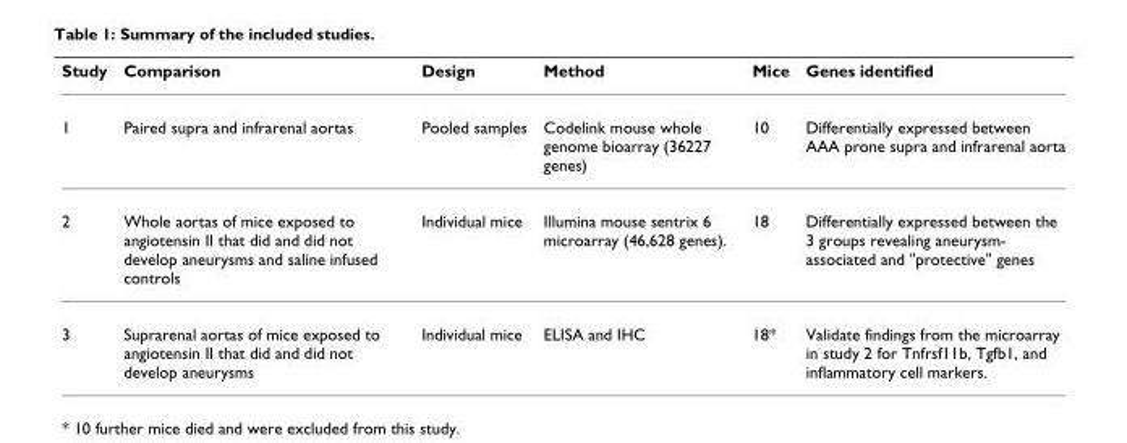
<table><thead><tr><td>Study</td><td>Comparison</td><td>Design</td><td>Method</td><td>Mice</td><td>Genes identified</td></tr></thead><tbody><tr><td>1</td><td>Paired supra and infrarenal aortas</td><td>Pooled samples</td><td>Codelink mouse whole genome bioarray (36227 genes)</td><td>10</td><td>Differentially expressed between AAA prone supra and infrarenal aorta</td></tr><tr><td>2</td><td>Whole aortas of mice exposed to angiotensin II that did and did not develop aneurysms and saline infused controls</td><td>Individual mice</td><td>Illumina mouse sentrix 6 microarray (46,628 genes).</td><td>18</td><td>Differentially expressed between the 3 groups revealing aneurysm- associated and &quot;protective&quot; genes</td></tr><tr><td>3</td><td>Suprarenal aortas of mice exposed to angiotensin II that did and did not develop aneurysms</td><td>Individual mice</td><td>ELISA and IHC</td><td>18*</td><td>Validate findings from the microarray in study 2 for Tnfrsf11b, Tgfb1, and inflammatory cell markers.</td></tr></tbody></table>